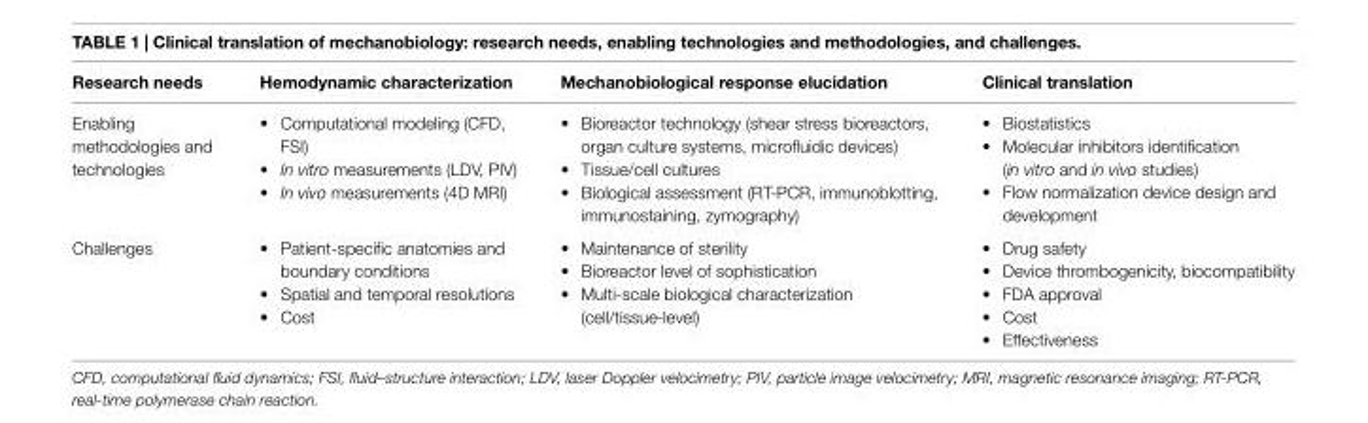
<table><thead><tr><td>Research needs</td><td>Hemodynamic characterization</td><td>Mechanobiological response elucidation</td><td>Clinical translation</td></tr></thead><tbody><tr><td>Enabling methodologies and technologies</td><td>• Computational modeling (CFD, FSI) • In vitro measurements (LDV, PIV) • In vivo measurements (4D MRI)</td><td>• Bioreactor technology (shear stress bioreactors, organ culture systems, microfluidic devices) • Tissue/cell cultures • Biological assessment (RT-PCR, immunoblotting, immunostaining, zymography)</td><td>• Biostatistics • Molecular inhibitors identification (in vitro and in vivo studies) • Flow normalization device design and development</td></tr><tr><td>Challenges</td><td>• Patient-specific anatomies and boundary conditions • Spatial and temporal resolutions • Cost</td><td>• Maintenance of sterility • Bioreactor level of sophistication • Multi-scale biological characterization (cell/tissue-level)</td><td>• Drug safety • Device thrombogenicity, biocompatibility • FDA approval • Cost • Effectiveness</td></tr></tbody></table>